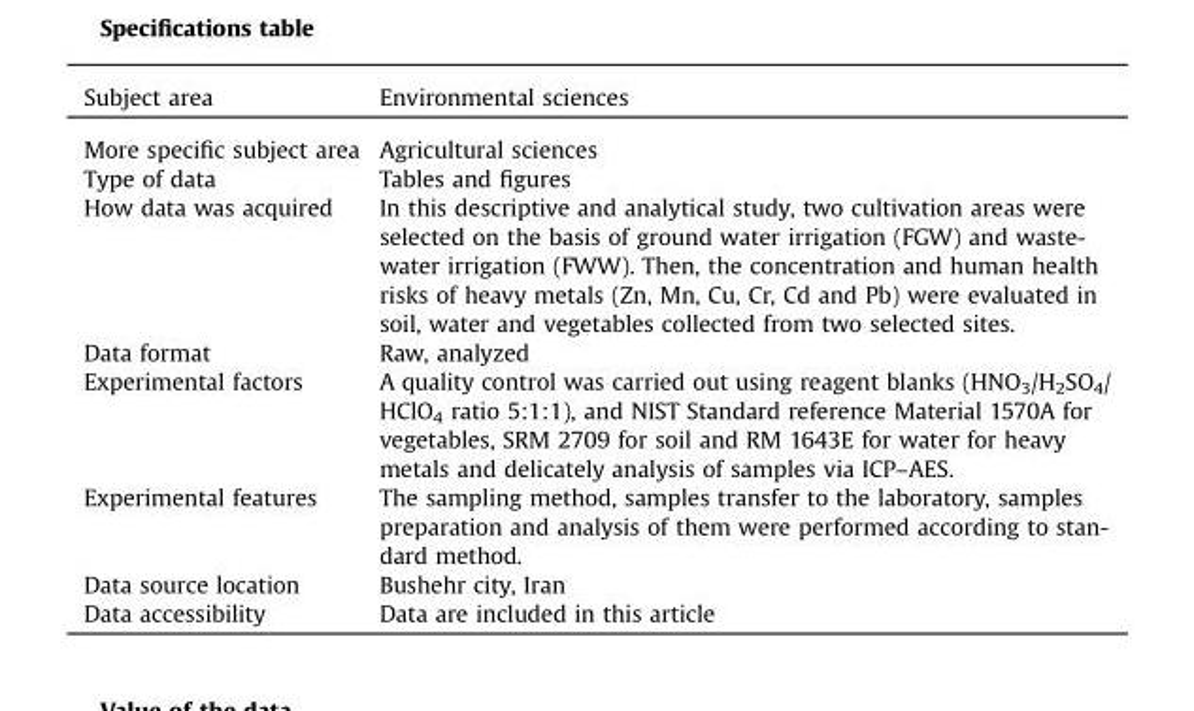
<table><thead><tr><td>Subject area</td><td>Environmental sciences</td></tr></thead><tbody><tr><td>More specific subject area</td><td>Agricultural sciences</td></tr><tr><td>Type of data</td><td>Tables and figures</td></tr><tr><td>How data was acquired</td><td>In this descriptive and analytical study, two cultivation areas were selected on the basis of ground water irrigation (FGW) and waste- water irrigation (FWW). Then, the concentration and human health risks of heavy metals (Zn, Mn, Cu, Cr, Cd and Pb) were evaluated in soil, water and vegetables collected from two selected sites.</td></tr><tr><td>Data format</td><td>Raw, analyzed</td></tr><tr><td>Experimental factors</td><td>A quality control was carried out using reagent blanks (HNO<sub>3</sub>/H<sub>2</sub>SO<sub>4</sub>/ HClO<sub>4</sub> ratio 5:1:1), and NIST Standard reference Material 1570A for vegetables, SRM 2709 for soil and RM 1643E for water for heavy metals and delicately analysis of samples via ICP–AES.</td></tr><tr><td>Experimental features</td><td>The sampling method, samples transfer to the laboratory, samples preparation and analysis of them were performed according to stan- dard method.</td></tr><tr><td>Data source location</td><td>Bushehr city, Iran</td></tr><tr><td>Data accessibility</td><td>Data are included in this article</td></tr></tbody></table>